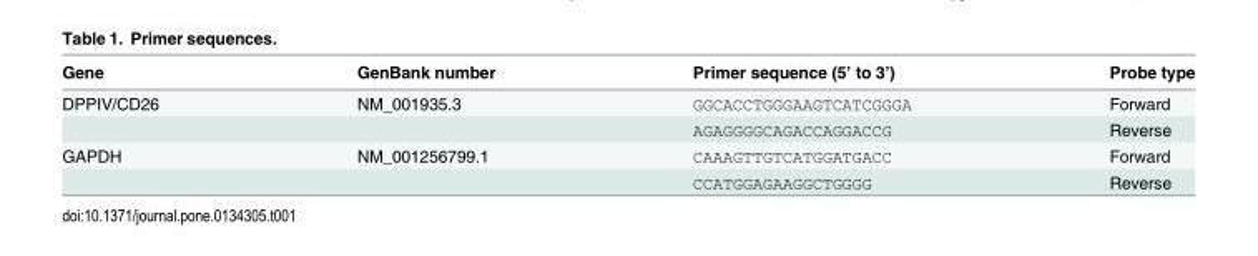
<table><thead><tr><td>Gene</td><td>GenBank number</td><td>Primer sequence (5’ to 3’)</td><td>Probe type</td></tr></thead><tbody><tr><td rowspan="2">DPPIV/CD26</td><td>NM_001935.3</td><td>GGCACCTGGGAAGTCATCGGGA</td><td>Forward</td></tr><tr><td></td><td>AGAGGGGCAGACCAGGACCG</td><td>Reverse</td></tr><tr><td rowspan="2">GAPDH</td><td>NM_001256799.1</td><td>CAAAGTTGTCATGGATGACC</td><td>Forward</td></tr><tr><td></td><td>CCATGGAGAAGGCTGGGG</td><td>Reverse</td></tr></tbody></table>